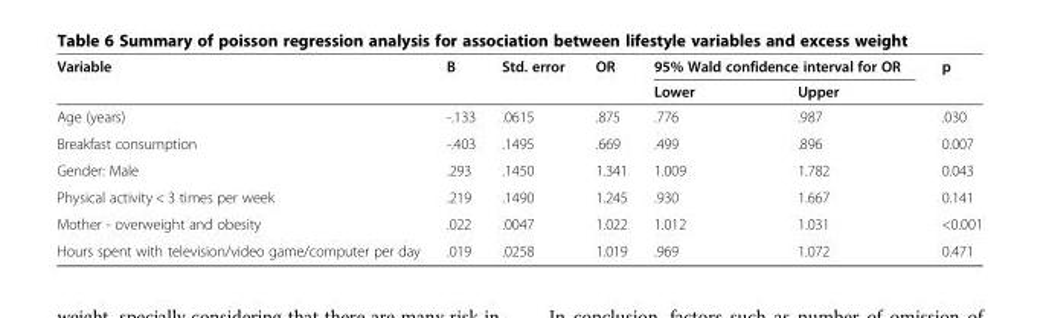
<table><thead><tr><td rowspan="2">Variable</td><td rowspan="2">B</td><td rowspan="2">Std. error</td><td rowspan="2">OR</td><td colspan="2">95% Wald confidence interval for OR</td><td rowspan="2">p</td></tr><tr><td>Lower</td><td>Upper</td></tr></thead><tbody><tr><td>Age (years)</td><td>-.133</td><td>.0615</td><td>.875</td><td>.776</td><td>.987</td><td>.030</td></tr><tr><td>Breakfast consumption</td><td>-.403</td><td>.1495</td><td>.669</td><td>.499</td><td>.896</td><td>0.007</td></tr><tr><td>Gender: Male</td><td>.293</td><td>.1450</td><td>1.341</td><td>1.009</td><td>1.782</td><td>0.043</td></tr><tr><td>Physical activity &lt; 3 times per week</td><td>.219</td><td>.1490</td><td>1.245</td><td>.930</td><td>1.667</td><td>0.141</td></tr><tr><td>Mother - overweight and obesity</td><td>.022</td><td>.0047</td><td>1.022</td><td>1.012</td><td>1.031</td><td>&lt;0.001</td></tr><tr><td>Hours spent with television/video game/computer per day</td><td>.019</td><td>.0258</td><td>1.019</td><td>.969</td><td>1.072</td><td>0.471</td></tr></tbody></table>